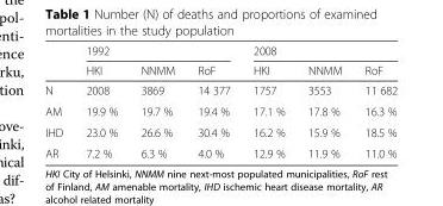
<table><thead><tr><td rowspan="2"></td><td colspan="3">1992</td><td colspan="3">2008</td></tr><tr><td>HKI</td><td>NNMM</td><td>RoF</td><td>HKI</td><td>NNMM</td><td>RoF</td></tr></thead><tbody><tr><td>N</td><td>2008</td><td>3869</td><td>14 377</td><td>1757</td><td>3553</td><td>11 682</td></tr><tr><td>AM</td><td>19.9 %</td><td>19.7 %</td><td>19.4 %</td><td>17.1 %</td><td>17.8 %</td><td>16.3 %</td></tr><tr><td>IHD</td><td>23.0 %</td><td>26.6 %</td><td>30.4 %</td><td>16.2 %</td><td>15.9 %</td><td>18.5 %</td></tr><tr><td>AR</td><td>7.2 %</td><td>6.3 %</td><td>4.0 %</td><td>12.9 %</td><td>11.9 %</td><td>11.0 %</td></tr></tbody></table>